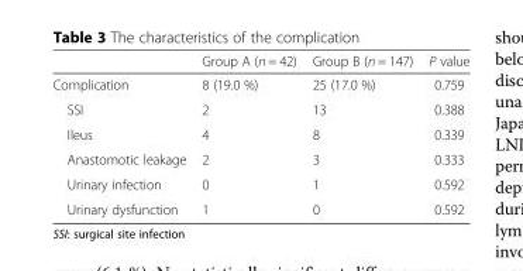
<table><thead><tr><td></td><td>Group A (n = 42)</td><td>Group B (n = 147)</td><td>P value</td></tr></thead><tbody><tr><td>Complication</td><td>8 (19.0 %)</td><td>25 (17.0 %)</td><td>0.759</td></tr><tr><td>SSI</td><td>2</td><td>13</td><td>0.388</td></tr><tr><td>Ileus</td><td>4</td><td>8</td><td>0.339</td></tr><tr><td>Anastomotic leakage</td><td>2</td><td>3</td><td>0.333</td></tr><tr><td>Urinary infection</td><td>0</td><td>1</td><td>0.592</td></tr><tr><td>Urinary dysfunction</td><td>1</td><td>0</td><td>0.592</td></tr></tbody></table>